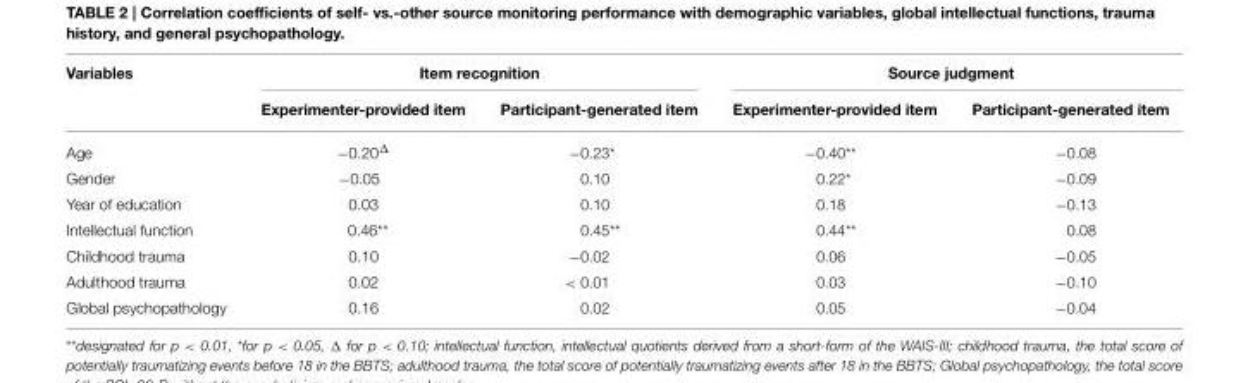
<table><thead><tr><td rowspan="2">Variables</td><td colspan="2">Item recognition</td><td colspan="2">Source judgment</td></tr><tr><td>Experimenter-provided item</td><td>Participant-generated item</td><td>Experimenter-provided item</td><td>Participant-generated item</td></tr></thead><tbody><tr><td>Age</td><td>−0.20<sup>Δ</sup></td><td>−0.23*</td><td>−0.40**</td><td>−0.08</td></tr><tr><td>Gender</td><td>−0.05</td><td>0.10</td><td>0.22*</td><td>−0.09</td></tr><tr><td>Year of education</td><td>0.03</td><td>0.10</td><td>0.18</td><td>−0.13</td></tr><tr><td>Intellectual function</td><td>0.46**</td><td>0.45**</td><td>0.44**</td><td>0.08</td></tr><tr><td>Childhood trauma</td><td>0.10</td><td>−0.02</td><td>0.06</td><td>−0.05</td></tr><tr><td>Adulthood trauma</td><td>0.02</td><td>&lt; 0.01</td><td>0.03</td><td>−0.10</td></tr><tr><td>Global psychopathology</td><td>0.16</td><td>0.02</td><td>0.05</td><td>−0.04</td></tr></tbody></table>